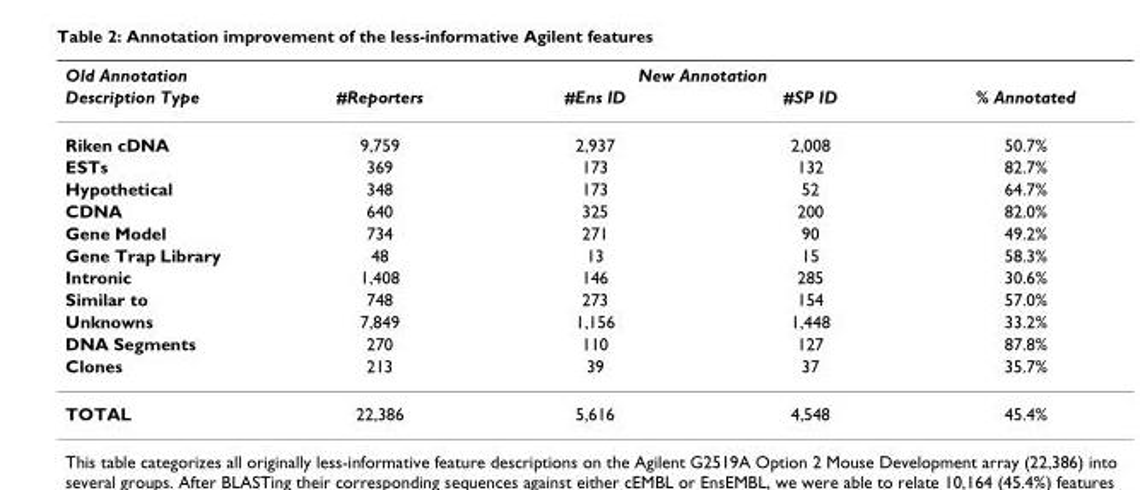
<table><thead><tr><td rowspan="2">Old Annotation Description Type</td><td colspan="4">New Annotation</td></tr><tr><td>#Reporters</td><td>#Ens ID</td><td>#SP ID</td><td>% Annotated</td></tr></thead><tbody><tr><td>Riken cDNA</td><td>9,759</td><td>2,937</td><td>2,008</td><td>50.7%</td></tr><tr><td>ESTs</td><td>369</td><td>173</td><td>132</td><td>82.7%</td></tr><tr><td>Hypothetical</td><td>348</td><td>173</td><td>52</td><td>64.7%</td></tr><tr><td>CDNA</td><td>640</td><td>325</td><td>200</td><td>82.0%</td></tr><tr><td>Gene Model</td><td>734</td><td>271</td><td>90</td><td>49.2%</td></tr><tr><td>Gene Trap Library</td><td>48</td><td>13</td><td>15</td><td>58.3%</td></tr><tr><td>Intronic</td><td>1,408</td><td>146</td><td>285</td><td>30.6%</td></tr><tr><td>Similar to</td><td>748</td><td>273</td><td>154</td><td>57.0%</td></tr><tr><td>Unknowns</td><td>7,849</td><td>1,156</td><td>1,448</td><td>33.2%</td></tr><tr><td>DNA Segments</td><td>270</td><td>110</td><td>127</td><td>87.8%</td></tr><tr><td>Clones</td><td>213</td><td>39</td><td>37</td><td>35.7%</td></tr><tr><td>TOTAL</td><td>22,386</td><td>5,616</td><td>4,548</td><td>45.4%</td></tr></tbody></table>